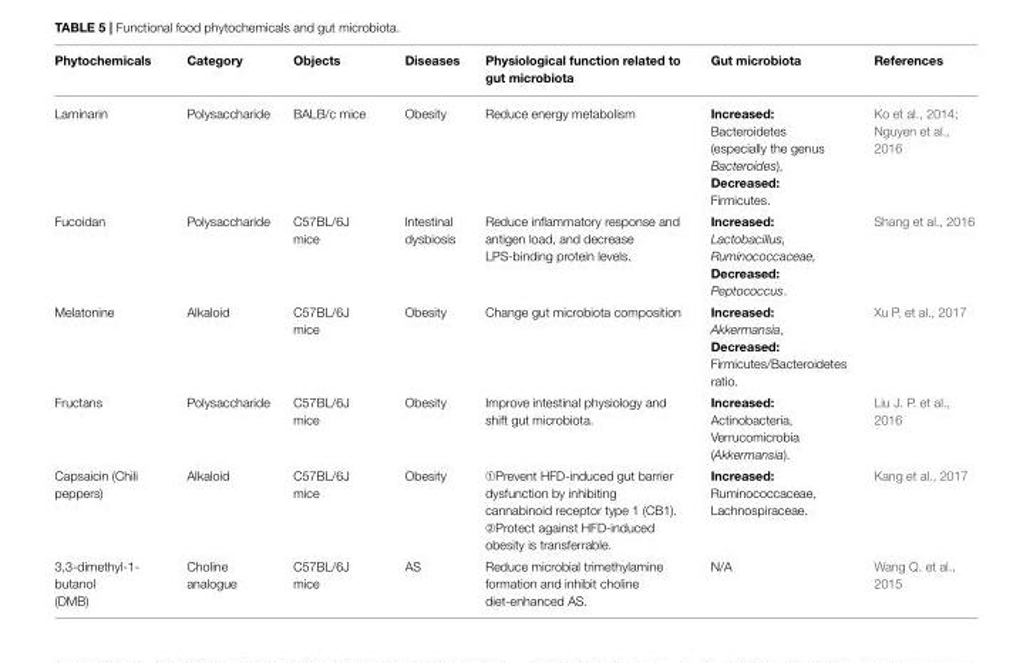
<table><thead><tr><td>Phytochemicals</td><td>Category</td><td>Objects</td><td>Diseases</td><td>Physiological function related to gut microbiota</td><td>Gut microbiota</td><td>References</td></tr></thead><tbody><tr><td>Laminarin</td><td>Polysaccharide</td><td>BALB/c mice</td><td>Obesity</td><td>Reduce energy metabolism</td><td>Increased: Bacteroidetes (especially the genus Bacteroides), Decreased: Firmicutes.</td><td>Ko et al., 2014; Nguyen et al., 2016</td></tr><tr><td>Fucoidan</td><td>Polysaccharide</td><td>C57BL/6J mice</td><td>Intestinal dysbiosis</td><td>Reduce inflammatory response and antigen load, and decrease LPS-binding protein levels.</td><td>Increased: Lactobacillus, Ruminococcaceae, Decreased: Peptococcus.</td><td>Shang et al., 2016</td></tr><tr><td>Melatonine</td><td>Alkaloid</td><td>C57BL/6J mice</td><td>Obesity</td><td>Change gut microbiota composition</td><td>Increased: Akkermansia, Decreased: Firmicutes/Bacteroidetes ratio.</td><td>Xu P. et al., 2017</td></tr><tr><td>Fructans</td><td>Polysaccharide</td><td>C57BL/6J mice</td><td>Obesity</td><td>Improve intestinal physiology and shift gut microbiota.</td><td>Increased: Actinobacteria, Verrucomicrobia (Akkermansia).</td><td>Liu J. P. et al., 2016</td></tr><tr><td>Capsaicin (Chili peppers)</td><td>Alkaloid</td><td>C57BL/6J mice</td><td>Obesity</td><td>Prevent HFD-induced gut barrier dysfunction by inhibiting cannabinoid receptor type 1 (CB1). Protect against HFD-induced obesity is transferrable.</td><td>Increased: Ruminococcaceae, Lachnospiraceae.</td><td>Kang et al., 2017</td></tr><tr><td>3,3-dimethyl-1- butanol (DMB)</td><td>Choline analogue</td><td>C57BL/6J mice</td><td>AS</td><td>Reduce microbial trimethylamine formation and inhibit choline diet-enhanced AS.</td><td>N/A</td><td>Wang Q. et al., 2015</td></tr></tbody></table>